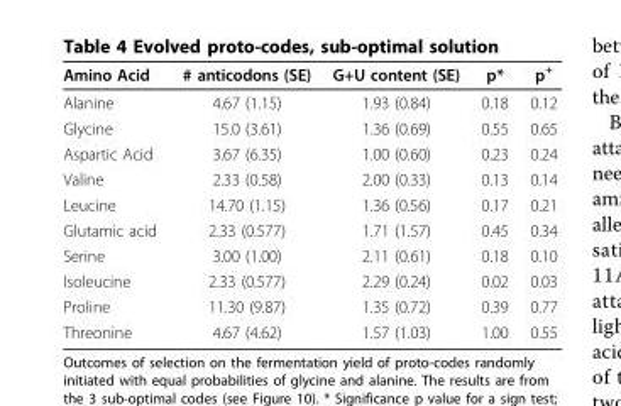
<table><thead><tr><td>Amino Acid</td><td># anticodons (SE)</td><td>G+U content (SE)</td><td>p*</td><td>p<sup>+</sup></td></tr></thead><tbody><tr><td>Alanine</td><td>4.67 (1.15)</td><td>1.93 (0.84)</td><td>0.18</td><td>0.12</td></tr><tr><td>Glycine</td><td>15.0 (3.61)</td><td>1.36 (0.69)</td><td>0.55</td><td>0.65</td></tr><tr><td>Aspartic Acid</td><td>3.67 (6.35)</td><td>1.00 (0.60)</td><td>0.23</td><td>0.24</td></tr><tr><td>Valine</td><td>2.33 (0.58)</td><td>2.00 (0.33)</td><td>0.13</td><td>0.14</td></tr><tr><td>Leucine</td><td>14.70 (1.15)</td><td>1.36 (0.56)</td><td>0.17</td><td>0.21</td></tr><tr><td>Glutamic acid</td><td>2.33 (0.577)</td><td>1.71 (1.57)</td><td>0.45</td><td>0.34</td></tr><tr><td>Serine</td><td>3.00 (1.00)</td><td>2.11 (0.61)</td><td>0.18</td><td>0.10</td></tr><tr><td>Isoleucine</td><td>2.33 (0.577)</td><td>2.29 (0.24)</td><td>0.02</td><td>0.03</td></tr><tr><td>Proline</td><td>11.30 (9.87)</td><td>1.35 (0.72)</td><td>0.39</td><td>0.77</td></tr><tr><td>Threonine</td><td>4.67 (4.62)</td><td>1.57 (1.03)</td><td>1.00</td><td>0.55</td></tr></tbody></table>